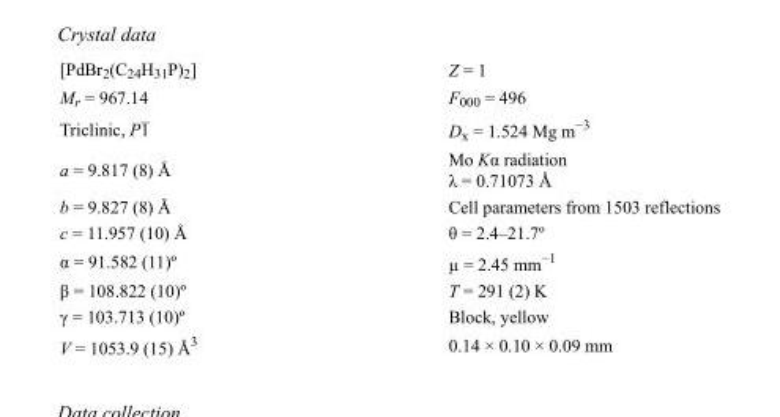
<table><tbody><tr><td>[PdBr<sub>2</sub>(C<sub>24</sub>H<sub>31</sub>P)<sub>2</sub>]</td><td>Z = 1</td></tr><tr><td>M<sub>r</sub> = 967.14</td><td>F000 = 496</td></tr><tr><td>Triclinic, P1</td><td>D<sub>x</sub> = 1.524 Mg m<sup>−3</sup></td></tr><tr><td>a = 9.817 (8) Å</td><td>Mo Kα radiation λ = 0.71073 Å</td></tr><tr><td>b = 9.827 (8) Å</td><td>Cell parameters from 1503 reflections</td></tr><tr><td>c = 11.957 (10) Å</td><td>θ = 2.4–21.7º</td></tr><tr><td>α = 91.582 (11)º</td><td>µ = 2.45 mm<sup>−1</sup></td></tr><tr><td>β = 108.822 (10)º</td><td>T = 291 (2) K</td></tr><tr><td>γ = 103.713 (10)º</td><td>Block, yellow</td></tr><tr><td>V = 1053.9 (15) Å<sup>3</sup></td><td>0.14 × 0.10 × 0.09 mm</td></tr></tbody></table>